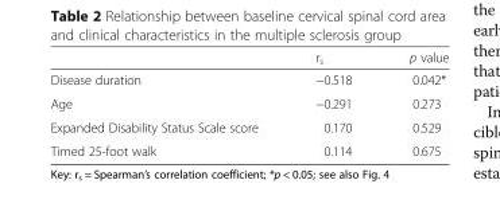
<table><thead><tr><td></td><td>r<sub>s</sub></td><td>p value</td></tr></thead><tbody><tr><td>Disease duration</td><td>−0.518</td><td>0.042*</td></tr><tr><td>Age</td><td>−0.291</td><td>0.273</td></tr><tr><td>Expanded Disability Status Scale score</td><td>0.170</td><td>0.529</td></tr><tr><td>Timed 25-foot walk</td><td>0.114</td><td>0.675</td></tr></tbody></table>